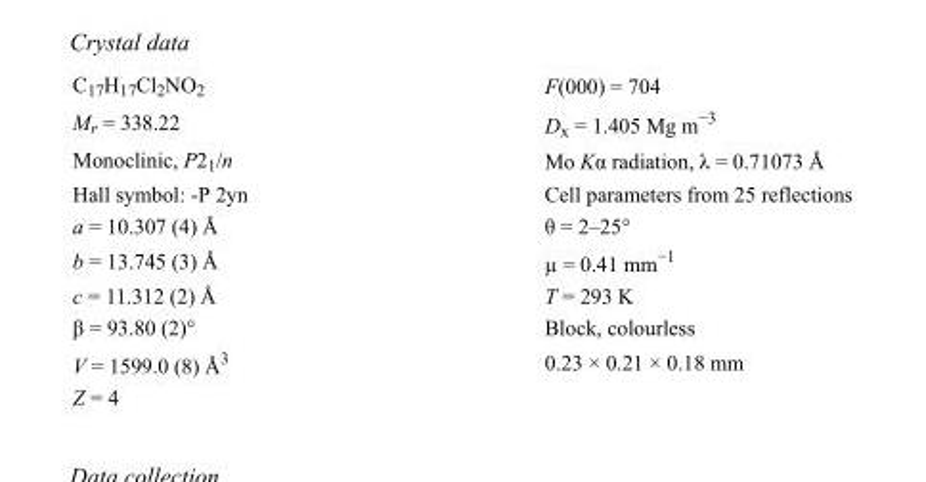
<table><tbody><tr><td>C<sub>17</sub>H<sub>17</sub>Cl<sub>2</sub>NO<sub>2</sub></td><td>F(000) = 704</td></tr><tr><td>M<sub>r</sub> = 338.22</td><td>D<sub>x</sub> = 1.405 Mg m<sup>−3</sup></td></tr><tr><td>Monoclinic, P2<sub>1</sub>/n</td><td>Mo Kα radiation, λ = 0.71073 Å</td></tr><tr><td>Hall symbol: -P 2yn</td><td>Cell parameters from 25 reflections</td></tr><tr><td>a = 10.307 (4) Å</td><td>θ = 2–25°</td></tr><tr><td>b = 13.745 (3) Å</td><td>µ = 0.41 mm<sup>−1</sup></td></tr><tr><td>c = 11.312 (2) Å</td><td>T = 293 K</td></tr><tr><td>β = 93.80 (2)°</td><td>Block, colourless</td></tr><tr><td>V = 1599.0 (8) Å<sup>3</sup></td><td>0.23 × 0.21 × 0.18 mm</td></tr><tr><td>Z = 4</td><td></td></tr></tbody></table>